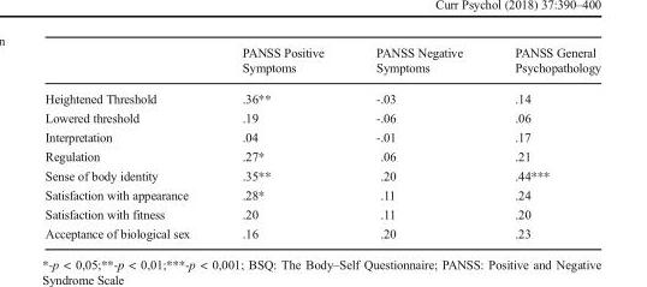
<table><thead><tr><td></td><td>PANSS Positive Symptoms</td><td>PANSS Negative Symptoms</td><td>PANSS General Psychopathology</td></tr></thead><tbody><tr><td>Heightened Threshold</td><td>.36**</td><td>-.03</td><td>.14</td></tr><tr><td>Lowered threshold</td><td>.19</td><td>-.06</td><td>.06</td></tr><tr><td>Interpretation</td><td>.04</td><td>-.01</td><td>.17</td></tr><tr><td>Regulation</td><td>.27*</td><td>.06</td><td>.21</td></tr><tr><td>Sense of body identity</td><td>.35**</td><td>.20</td><td>.44***</td></tr><tr><td>Satisfaction with appearance</td><td>.28*</td><td>.11</td><td>.24</td></tr><tr><td>Satisfaction with fitness</td><td>.20</td><td>.11</td><td>.20</td></tr><tr><td>Acceptance of biological sex</td><td>.16</td><td>.20</td><td>.23</td></tr></tbody></table>